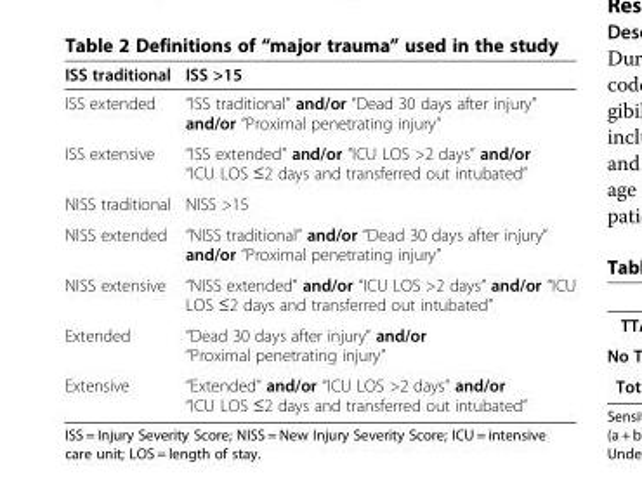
<table><thead><tr><td>ISS traditional</td><td>ISS &gt;15</td></tr></thead><tbody><tr><td>ISS extended</td><td>“ISS traditional” and/or “Dead 30 days after injury” and/or “Proximal penetrating injury”</td></tr><tr><td>ISS extensive</td><td>“ISS extended” and/or “ICU LOS &gt;2 days” and/or “ICU LOS ≤2 days and transferred out intubated”</td></tr><tr><td>NISS traditional</td><td>NISS &gt;15</td></tr><tr><td>NISS extended</td><td>“NISS traditional” and/or “Dead 30 days after injury” and/or “Proximal penetrating injury”</td></tr><tr><td>NISS extensive</td><td>“NISS extended” and/or “ICU LOS &gt;2 days” and/or “ICU LOS ≤2 days and transferred out intubated”</td></tr><tr><td>Extended</td><td>“Dead 30 days after injury” and/or “Proximal penetrating injury”</td></tr><tr><td>Extensive</td><td>“Extended” and/or “ICU LOS &gt;2 days” and/or “ICU LOS ≤2 days and transferred out intubated”</td></tr></tbody></table>